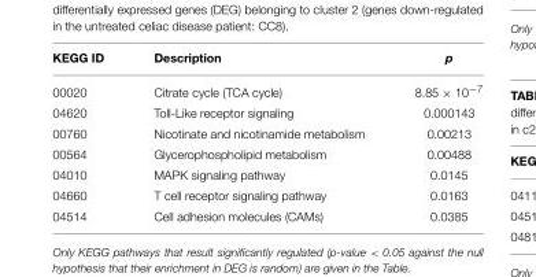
<table><thead><tr><td>KEGG ID</td><td>Description</td><td>p</td></tr></thead><tbody><tr><td>00020</td><td>Citrate cycle (TCA cycle)</td><td>8.85 × 10<sup>−7</sup></td></tr><tr><td>04620</td><td>Toll-Like receptor signaling</td><td>0.000143</td></tr><tr><td>00760</td><td>Nicotinate and nicotinamide metabolism</td><td>0.00213</td></tr><tr><td>00564</td><td>Glycerophospholipid metabolism</td><td>0.00488</td></tr><tr><td>04010</td><td>MAPK signaling pathway</td><td>0.0145</td></tr><tr><td>04660</td><td>T cell receptor signaling pathway</td><td>0.0163</td></tr><tr><td>04514</td><td>Cell adhesion molecules (CAMs)</td><td>0.0385</td></tr></tbody></table>